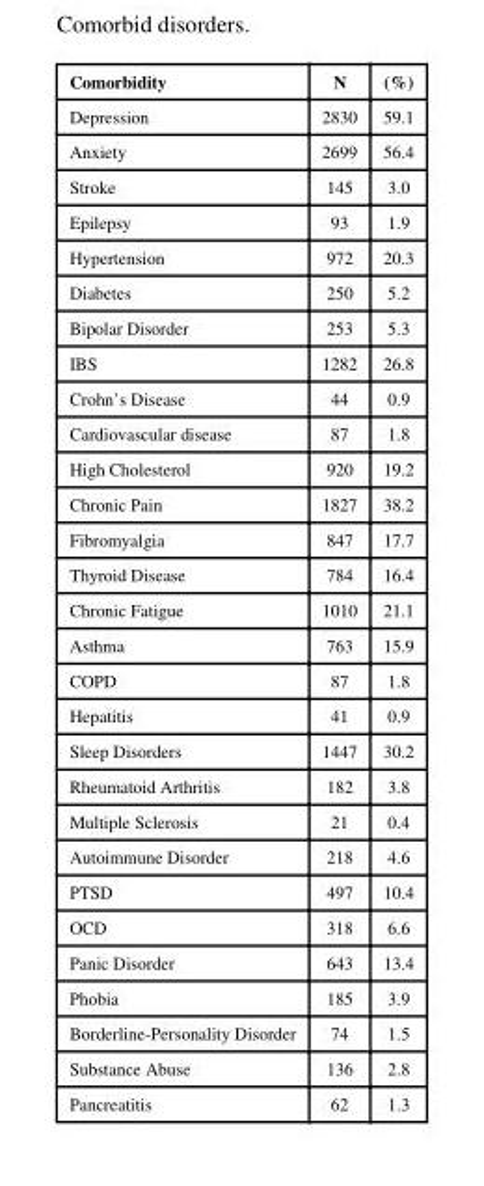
<table><thead><tr><td>Comorbidity</td><td>N</td><td>(%)</td></tr></thead><tbody><tr><td>Depression</td><td>2830</td><td>59.1</td></tr><tr><td>Anxiety</td><td>2699</td><td>56.4</td></tr><tr><td>Stroke</td><td>145</td><td>3.0</td></tr><tr><td>Epilepsy</td><td>93</td><td>1.9</td></tr><tr><td>Hypertension</td><td>972</td><td>20.3</td></tr><tr><td>Diabetes</td><td>250</td><td>5.2</td></tr><tr><td>Bipolar Disorder</td><td>253</td><td>5.3</td></tr><tr><td>IBS</td><td>1282</td><td>26.8</td></tr><tr><td>Crohn’s Disease</td><td>44</td><td>0.9</td></tr><tr><td>Cardiovascular disease</td><td>87</td><td>1.8</td></tr><tr><td>High Cholesterol</td><td>920</td><td>19.2</td></tr><tr><td>Chronic Pain</td><td>1827</td><td>38.2</td></tr><tr><td>Fibromyalgia</td><td>847</td><td>17.7</td></tr><tr><td>Thyroid Disease</td><td>784</td><td>16.4</td></tr><tr><td>Chronic Fatigue</td><td>1010</td><td>21.1</td></tr><tr><td>Asthma</td><td>763</td><td>15.9</td></tr><tr><td>COPD</td><td>87</td><td>1.8</td></tr><tr><td>Hepatitis</td><td>41</td><td>0.9</td></tr><tr><td>Sleep Disorders</td><td>1447</td><td>30.2</td></tr><tr><td>Rheumatoid Arthritis</td><td>182</td><td>3.8</td></tr><tr><td>Multiple Sclerosis</td><td>21</td><td>0.4</td></tr><tr><td>Autoimmune Disorder</td><td>218</td><td>4.6</td></tr><tr><td>PTSD</td><td>497</td><td>10.4</td></tr><tr><td>OCD</td><td>318</td><td>6.6</td></tr><tr><td>Panic Disorder</td><td>643</td><td>13.4</td></tr><tr><td>Phobia</td><td>185</td><td>3.9</td></tr><tr><td>Borderline-Personality Disorder</td><td>74</td><td>1.5</td></tr><tr><td>Substance Abuse</td><td>136</td><td>2.8</td></tr><tr><td>Pancreatitis</td><td>62</td><td>1.3</td></tr></tbody></table>